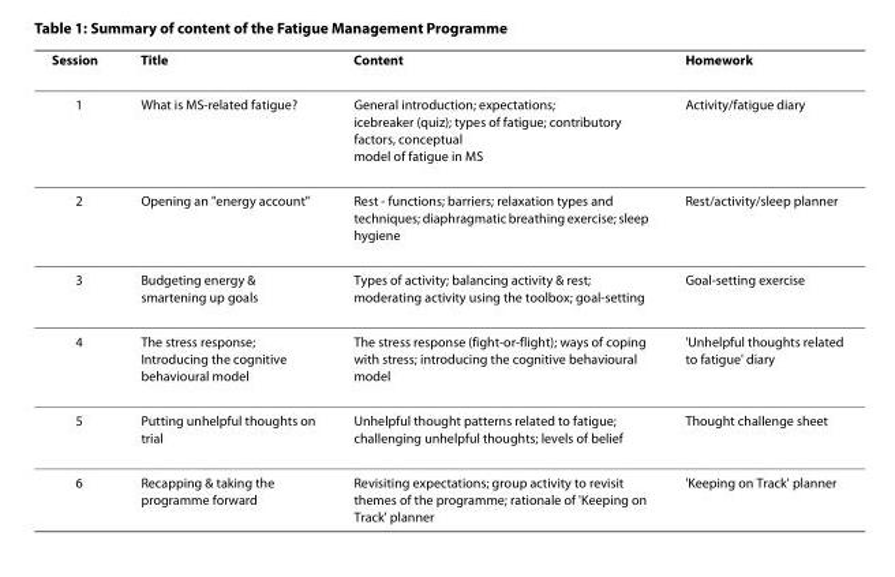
<table><thead><tr><td>Session</td><td>Title</td><td>Content</td><td>Homework</td></tr></thead><tbody><tr><td>1</td><td>What is MS-related fatigue?</td><td>General introduction; expectations; icebreaker (quiz); types of fatigue; contributory factors, conceptual model of fatigue in MS</td><td>Activity/fatigue diary</td></tr><tr><td>2</td><td>Opening an &quot;energy account&quot;</td><td>Rest - functions; barriers; relaxation types and techniques; diaphragmatic breathing exercise; sleep hygiene</td><td>Rest/activity/sleep planner</td></tr><tr><td>3</td><td>Budgeting energy &amp; smartening up goals</td><td>Types of activity; balancing activity &amp; rest; moderating activity using the toolbox; goal-setting</td><td>Goal-setting exercise</td></tr><tr><td>4</td><td>The stress response; Introducing the cognitive behavioural model</td><td>The stress response (fight-or-flight); ways of coping with stress; introducing the cognitive behavioural model</td><td>&#x27;Unhelpful thoughts related to fatigue&#x27; diary</td></tr><tr><td>5</td><td>Putting unhelpful thoughts on trial</td><td>Unhelpful thought patterns related to fatigue; challenging unhelpful thoughts; levels of belief</td><td>Thought challenge sheet</td></tr><tr><td>6</td><td>Recapping &amp; taking the programme forward</td><td>Revisiting expectations; group activity to revisit themes of the programme; rationale of &#x27;Keeping on Track&#x27; planner</td><td>&#x27;Keeping on Track&#x27; planner</td></tr></tbody></table>